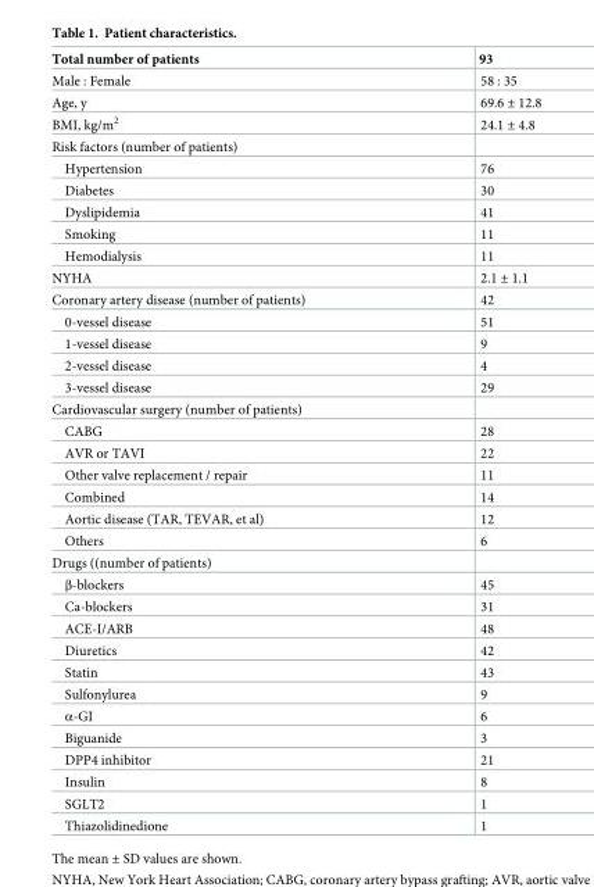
<table><thead><tr><td>Total number of patients</td><td>93</td></tr></thead><tbody><tr><td>Male : Female</td><td>58 : 35</td></tr><tr><td>Age, y</td><td>69.6 ± 12.8</td></tr><tr><td>BMI, kg/m<sup>2</sup></td><td>24.1 ± 4.8</td></tr><tr><td colspan="2">Risk factors (number of patients)</td></tr><tr><td>Hypertension</td><td>76</td></tr><tr><td>Diabetes</td><td>30</td></tr><tr><td>Dyslipidemia</td><td>41</td></tr><tr><td>Smoking</td><td>11</td></tr><tr><td>Hemodialysis</td><td>11</td></tr><tr><td>NYHA</td><td>2.1 ± 1.1</td></tr><tr><td>Coronary artery disease (number of patients)</td><td>42</td></tr><tr><td>0-vessel disease</td><td>51</td></tr><tr><td>1-vessel disease</td><td>9</td></tr><tr><td>2-vessel disease</td><td>4</td></tr><tr><td>3-vessel disease</td><td>29</td></tr><tr><td colspan="2">Cardiovascular surgery (number of patients)</td></tr><tr><td>CABG</td><td>28</td></tr><tr><td>AVR or TAVI</td><td>22</td></tr><tr><td>Other valve replacement / repair</td><td>11</td></tr><tr><td>Combined</td><td>14</td></tr><tr><td>Aortic disease (TAR, TEVAR, et al)</td><td>12</td></tr><tr><td>Others</td><td>6</td></tr><tr><td colspan="2">Drugs ((number of patients)</td></tr><tr><td>β-blockers</td><td>45</td></tr><tr><td>Ca-blockers</td><td>31</td></tr><tr><td>ACE-I/ARB</td><td>48</td></tr><tr><td>Diuretics</td><td>42</td></tr><tr><td>Statin</td><td>43</td></tr><tr><td>Sulfonylurea</td><td>9</td></tr><tr><td>α-GI</td><td>6</td></tr><tr><td>Biguanide</td><td>3</td></tr><tr><td>DPP4 inhibitor</td><td>21</td></tr><tr><td>Insulin</td><td>8</td></tr><tr><td>SGLT2</td><td>1</td></tr><tr><td>Thiazolidinedione</td><td>1</td></tr></tbody></table>